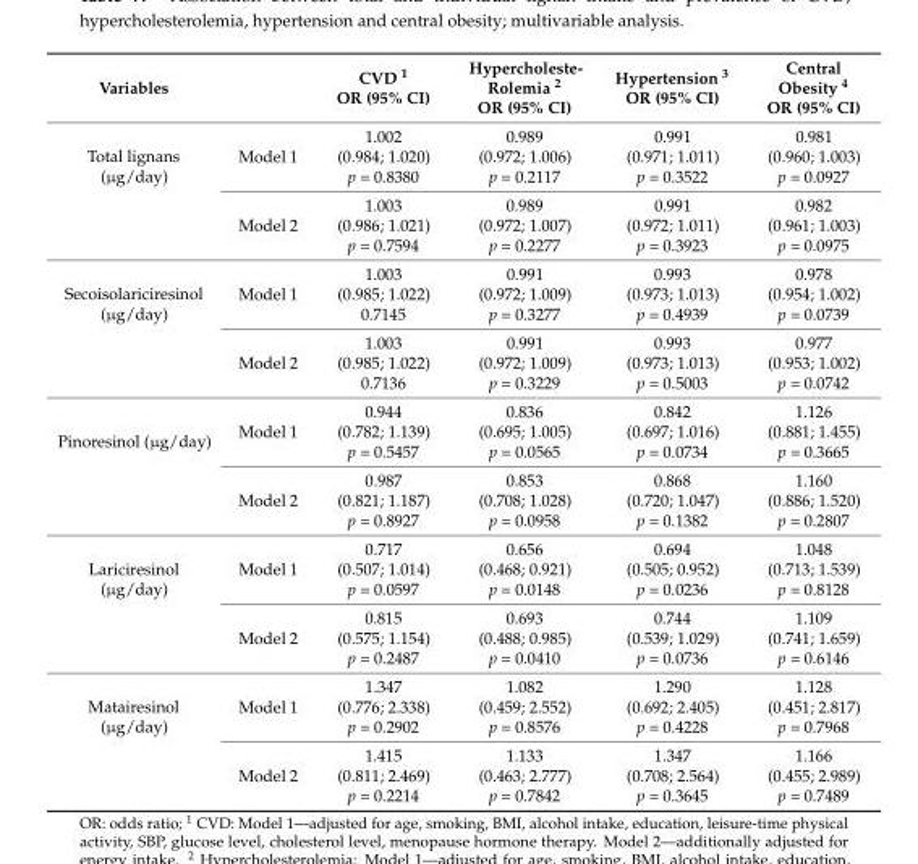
<table><thead><tr><td>Variables</td><td></td><td>CVD <sup>1</sup> OR (95% CI)</td><td>Hypercholeste- Rolemia <sup>2</sup> OR (95% CI)</td><td>Hypertension <sup>3</sup> OR (95% CI)</td><td>Central Obesity <sup>4</sup> OR (95% CI)</td></tr></thead><tbody><tr><td rowspan="2">Total lignans (µg/day)</td><td>Model 1</td><td>1.002 (0.984; 1.020) p = 0.8380</td><td>0.989 (0.972; 1.006) p = 0.2117</td><td>0.991 (0.971; 1.011) p = 0.3522</td><td>0.981 (0.960; 1.003) p = 0.0927</td></tr><tr><td>Model 2</td><td>1.003 (0.986; 1.021) p = 0.7594</td><td>0.989 (0.972; 1.007) p = 0.2277</td><td>0.991 (0.972; 1.011) p = 0.3923</td><td>0.982 (0.961; 1.003) p = 0.0975</td></tr><tr><td rowspan="2">Secoisolariciresinol (µg/day)</td><td>Model 1</td><td>1.003 (0.985; 1.022) 0.7145</td><td>0.991 (0.972; 1.009) p = 0.3277</td><td>0.993 (0.973; 1.013) p = 0.4939</td><td>0.978 (0.954; 1.002) p = 0.0739</td></tr><tr><td>Model 2</td><td>1.003 (0.985; 1.022) 0.7136</td><td>0.991 (0.972; 1.009) p = 0.3229</td><td>0.993 (0.973; 1.013) p = 0.5003</td><td>0.977 (0.953; 1.002) p = 0.0742</td></tr><tr><td rowspan="2">Pinoresinol (µg/day)</td><td>Model 1</td><td>0.944 (0.782; 1.139) p = 0.5457</td><td>0.836 (0.695; 1.005) p = 0.0565</td><td>0.842 (0.697; 1.016) p = 0.0734</td><td>1.126 (0.881; 1.455) p = 0.3665</td></tr><tr><td>Model 2</td><td>0.987 (0.821; 1.187) p = 0.8927</td><td>0.853 (0.708; 1.028) p = 0.0958</td><td>0.868 (0.720; 1.047) p = 0.1382</td><td>1.160 (0.886; 1.520) p = 0.2807</td></tr><tr><td rowspan="2">Lariciresinol (µg/day)</td><td>Model 1</td><td>0.717 (0.507; 1.014) p = 0.0597</td><td>0.656 (0.468; 0.921) p = 0.0148</td><td>0.694 (0.505; 0.952) p = 0.0236</td><td>1.048 (0.713; 1.539) p = 0.8128</td></tr><tr><td>Model 2</td><td>0.815 (0.575; 1.154) p = 0.2487</td><td>0.693 (0.488; 0.985) p = 0.0410</td><td>0.744 (0.539; 1.029) p = 0.0736</td><td>1.109 (0.741; 1.659) p = 0.6146</td></tr><tr><td rowspan="2">Matairesinol (µg/day)</td><td>Model 1</td><td>1.347 (0.776; 2.338) p = 0.2902</td><td>1.082 (0.459; 2.552) p = 0.8576</td><td>1.290 (0.692; 2.405) p = 0.4228</td><td>1.128 (0.451; 2.817) p = 0.7968</td></tr><tr><td>Model 2</td><td>1.415 (0.811; 2.469) p = 0.2214</td><td>1.133 (0.463; 2.777) p = 0.7842</td><td>1.347 (0.708; 2.564) p = 0.3645</td><td>1.166 (0.455; 2.989) p = 0.7489</td></tr></tbody></table>